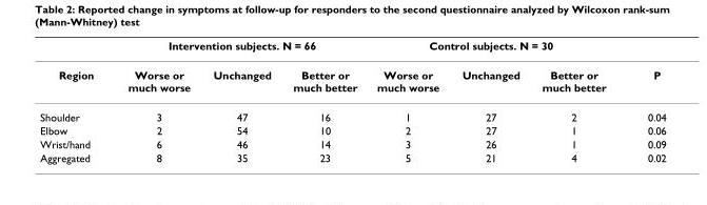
<table><thead><tr><td rowspan="2">Region</td><td colspan="3">Intervention subjects. N = 66</td><td colspan="3">Control subjects. N = 30</td><td rowspan="2">P</td></tr><tr><td>Worse or much worse</td><td>Unchanged</td><td>Better or much better</td><td>Worse or much worse</td><td>Unchanged</td><td>Better or much better</td></tr></thead><tbody><tr><td>Shoulder</td><td>3</td><td>47</td><td>16</td><td>1</td><td>27</td><td>2</td><td>0.04</td></tr><tr><td>Elbow</td><td>2</td><td>54</td><td>10</td><td>2</td><td>27</td><td>1</td><td>0.06</td></tr><tr><td>Wrist/hand</td><td>6</td><td>46</td><td>14</td><td>3</td><td>26</td><td>1</td><td>0.09</td></tr><tr><td>Aggregated</td><td>8</td><td>35</td><td>23</td><td>5</td><td>21</td><td>4</td><td>0.02</td></tr></tbody></table>